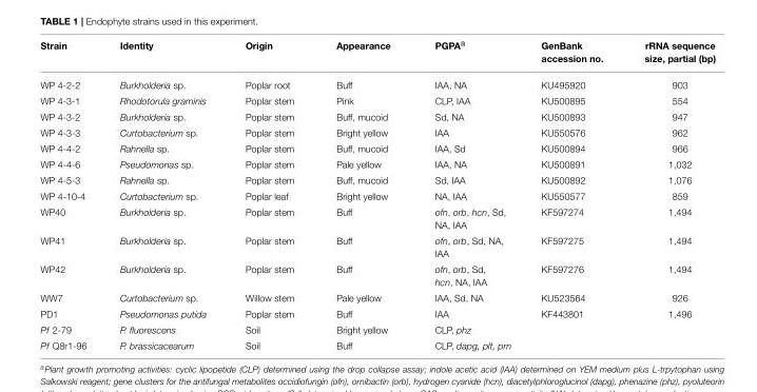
<table><thead><tr><td>Strain</td><td>Identity</td><td>Origin</td><td>Appearance</td><td>PGPA<sup>a</sup></td><td>GenBank accession no.</td><td>rRNA sequence size, partial (bp)</td></tr></thead><tbody><tr><td>WP 4-2-2</td><td>Burkholderia sp.</td><td>Poplar root</td><td>Buff</td><td>IAA, NA</td><td>KU495920</td><td>903</td></tr><tr><td>WP 4-3-1</td><td>Rhodotorula graminis</td><td>Poplar stem</td><td>Pink</td><td>CLP, IAA</td><td>KU500895</td><td>554</td></tr><tr><td>WP 4-3-2</td><td>Burkholderia sp.</td><td>Poplar stem</td><td>Buff, mucoid</td><td>Sd, NA</td><td>KU500893</td><td>947</td></tr><tr><td>WP 4-3-3</td><td>Curtobacterium sp.</td><td>Poplar stem</td><td>Bright yellow</td><td>IAA</td><td>KU550576</td><td>962</td></tr><tr><td>WP 4-4-2</td><td>Rahnella sp.</td><td>Poplar stem</td><td>Buff, mucoid</td><td>IAA, Sd</td><td>KU500894</td><td>966</td></tr><tr><td>WP 4-4-6</td><td>Pseudomonas sp.</td><td>Poplar stem</td><td>Pale yellow</td><td>IAA, NA</td><td>KU500891</td><td>1,032</td></tr><tr><td>WP 4-5-3</td><td>Rahnella sp.</td><td>Poplar stem</td><td>Buff, mucoid</td><td>Sd, IAA</td><td>KU500892</td><td>1,076</td></tr><tr><td>WP 4-10-4</td><td>Curtobacterium sp.</td><td>Poplar leaf</td><td>Bright yellow</td><td>NA, IAA</td><td>KU550577</td><td>859</td></tr><tr><td>WP40</td><td>Burkholderia sp.</td><td>Poplar stem</td><td>Buff</td><td>ofn, orb, hcn, Sd, NA, IAA</td><td>KF597274</td><td>1,494</td></tr><tr><td>WP41</td><td>Burkholderia sp.</td><td>Poplar stem</td><td>Buff</td><td>ofn, orb, Sd, NA, IAA</td><td>KF597275</td><td>1,494</td></tr><tr><td>WP42</td><td>Burkholderia sp.</td><td>Poplar stem</td><td>Buff</td><td>ofn, orb, Sd, hcn, NA, IAA</td><td>KF597276</td><td>1,494</td></tr><tr><td>WW7</td><td>Curtobacterium sp.</td><td>Willow stem</td><td>Pale yellow</td><td>IAA, Sd, NA</td><td>KU523564</td><td>926</td></tr><tr><td>PD1</td><td>Pseudomonas putida</td><td>Poplar stem</td><td>Buff</td><td>IAA</td><td>KF443801</td><td>1,496</td></tr><tr><td>Pf 2-79</td><td>P. fluorescens</td><td>Soil</td><td>Bright yellow</td><td>CLP, phz</td><td></td><td></td></tr><tr><td>Pf Q8r1-96</td><td>P. brassicacearum</td><td>Soil</td><td>Buff</td><td>CLP, dapg, plt, prn</td><td></td><td></td></tr></tbody></table>